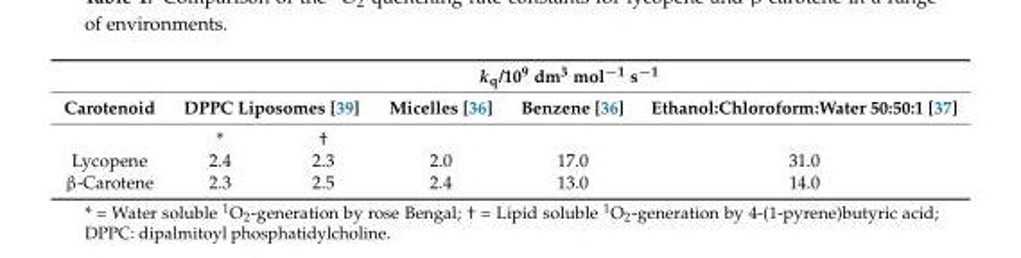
<table><thead><tr><td rowspan="3">Carotenoid</td><td colspan="5">k<sub>q</sub>/10<sup>9</sup> dm<sup>3</sup> mol<sup>−1</sup> s<sup>−1</sup></td></tr><tr><td colspan="2">DPPC Liposomes [39]</td><td rowspan="2">Micelles [36]</td><td rowspan="2">Benzene [36]</td><td rowspan="2">Ethanol:Chloroform:Water 50:50:1 [37]</td></tr><tr><td>*</td><td>†</td></tr></thead><tbody><tr><td>Lycopene</td><td>2.4</td><td>2.3</td><td>2.0</td><td>17.0</td><td>31.0</td></tr><tr><td>β-Carotene</td><td>2.3</td><td>2.5</td><td>2.4</td><td>13.0</td><td>14.0</td></tr></tbody></table>